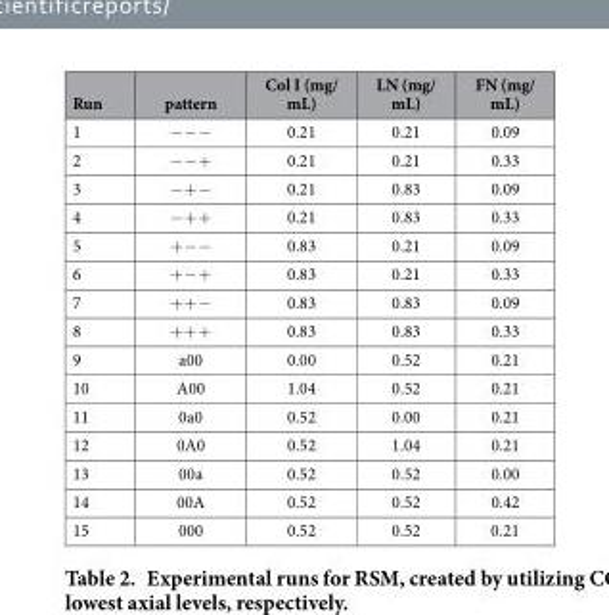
<table><thead><tr><td>Run</td><td>pattern</td><td>Col I (mg/ mL)</td><td>LN (mg/ mL)</td><td>FN (mg/ mL)</td></tr></thead><tbody><tr><td>1</td><td>− − −</td><td>0.21</td><td>0.21</td><td>0.09</td></tr><tr><td>2</td><td>− − +</td><td>0.21</td><td>0.21</td><td>0.33</td></tr><tr><td>3</td><td>− + −</td><td>0.21</td><td>0.83</td><td>0.09</td></tr><tr><td>4</td><td>− + +</td><td>0.21</td><td>0.83</td><td>0.33</td></tr><tr><td>5</td><td>+ − −</td><td>0.83</td><td>0.21</td><td>0.09</td></tr><tr><td>6</td><td>+ − +</td><td>0.83</td><td>0.21</td><td>0.33</td></tr><tr><td>7</td><td>+ + −</td><td>0.83</td><td>0.83</td><td>0.09</td></tr><tr><td>8</td><td>+ + +</td><td>0.83</td><td>0.83</td><td>0.33</td></tr><tr><td>9</td><td>a00</td><td>0.00</td><td>0.52</td><td>0.21</td></tr><tr><td>10</td><td>A00</td><td>1.04</td><td>0.52</td><td>0.21</td></tr><tr><td>11</td><td>0a0</td><td>0.52</td><td>0.00</td><td>0.21</td></tr><tr><td>12</td><td>0A0</td><td>0.52</td><td>1.04</td><td>0.21</td></tr><tr><td>13</td><td>00a</td><td>0.52</td><td>0.52</td><td>0.00</td></tr><tr><td>14</td><td>00A</td><td>0.52</td><td>0.52</td><td>0.42</td></tr><tr><td>15</td><td>000</td><td>0.52</td><td>0.52</td><td>0.21</td></tr></tbody></table>